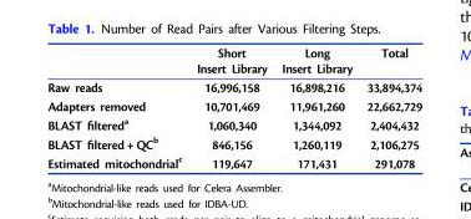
<table><thead><tr><td></td><td>Short Insert Library</td><td>Long Insert Library</td><td>Total</td></tr></thead><tbody><tr><td>Raw reads</td><td>16,996,158</td><td>16,898,216</td><td>33,894,374</td></tr><tr><td>Adapters removed</td><td>10,701,469</td><td>11,961,260</td><td>22,662,729</td></tr><tr><td>BLAST filtered<sup>a</sup></td><td>1,060,340</td><td>1,344,092</td><td>2,404,432</td></tr><tr><td>BLAST filtered+QC<sup>b</sup></td><td>846,156</td><td>1,260,119</td><td>2,106,275</td></tr><tr><td>Estimated mitochondrial<sup>c</sup></td><td>119,647</td><td>171,431</td><td>291,078</td></tr></tbody></table>